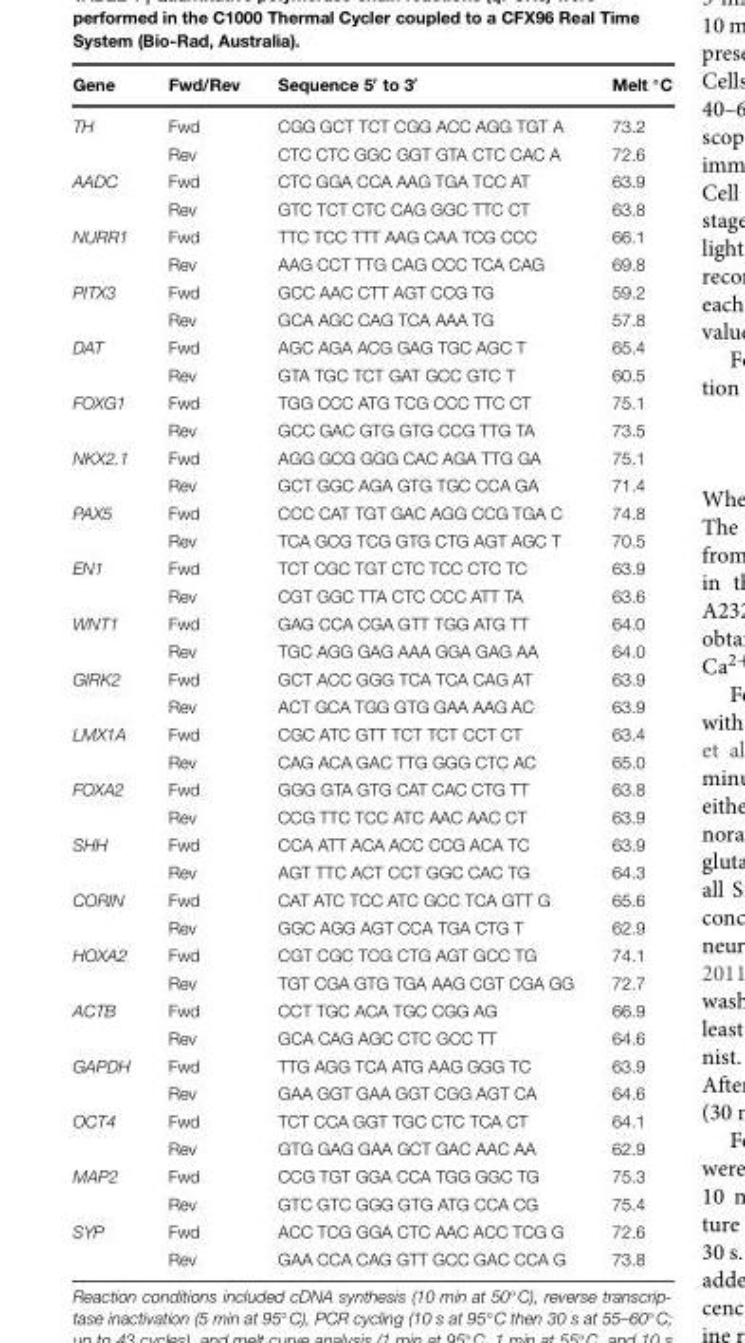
<table><thead><tr><td>Gene</td><td>Fwd/Rev</td><td>Sequence 5′ to 3′</td><td>Melt ◦C</td></tr></thead><tbody><tr><td rowspan="2">TH</td><td>Fwd</td><td>CGG GCT TCT CGG ACC AGG TGT A</td><td>73.2</td></tr><tr><td>Rev</td><td>CTC CTC GGC GGT GTA CTC CAC A</td><td>72.6</td></tr><tr><td rowspan="2">AADC</td><td>Fwd</td><td>CTC GGA CCA AAG TGA TCC AT</td><td>63.9</td></tr><tr><td>Rev</td><td>GTC TCT CTC CAG GGC TTC CT</td><td>63.8</td></tr><tr><td rowspan="2">NURR1</td><td>Fwd</td><td>TTC TCC TTT AAG CAA TCG CCC</td><td>66.1</td></tr><tr><td>Rev</td><td>AAG CCT TTG CAG CCC TCA CAG</td><td>69.8</td></tr><tr><td rowspan="2">PITX3</td><td>Fwd</td><td>GCC AAC CTT AGT CCG TG</td><td>59.2</td></tr><tr><td>Rev</td><td>GCA AGC CAG TCA AAA TG</td><td>57.8</td></tr><tr><td rowspan="2">DAT</td><td>Fwd</td><td>AGC AGA ACG GAG TGC AGC T</td><td>65.4</td></tr><tr><td>Rev</td><td>GTA TGC TCT GAT GCC GTC T</td><td>60.5</td></tr><tr><td rowspan="2">FOXG1</td><td>Fwd</td><td>TGG CCC ATG TCG CCC TTC CT</td><td>75.1</td></tr><tr><td>Rev</td><td>GCC GAC GTG GTG CCG TTG TA</td><td>73.5</td></tr><tr><td rowspan="2">NKX2.1</td><td>Fwd</td><td>AGG GCG GGG CAC AGA TTG GA</td><td>75.1</td></tr><tr><td>Rev</td><td>GCT GGC AGA GTG TGC CCA GA</td><td>71.4</td></tr><tr><td rowspan="2">PAX5</td><td>Fwd</td><td>CCC CAT TGT GAC AGG CCG TGA C</td><td>74.8</td></tr><tr><td>Rev</td><td>TCA GCG TCG GTG CTG AGT AGC T</td><td>70.5</td></tr><tr><td rowspan="2">EN1</td><td>Fwd</td><td>TCT CGC TGT CTC TCC CTC TC</td><td>63.9</td></tr><tr><td>Rev</td><td>CGT GGC TTA CTC CCC ATT TA</td><td>63.6</td></tr><tr><td rowspan="2">WNT1</td><td>Fwd</td><td>GAG CCA CGA GTT TGG ATG TT</td><td>64.0</td></tr><tr><td>Rev</td><td>TGC AGG GAG AAA GGA GAG AA</td><td>64.0</td></tr><tr><td rowspan="2">GIRK2</td><td>Fwd</td><td>GCT ACC GGG TCA TCA CAG AT</td><td>63.9</td></tr><tr><td>Rev</td><td>ACT GCA TGG GTG GAA AAG AC</td><td>63.9</td></tr><tr><td rowspan="2">LMX1A</td><td>Fwd</td><td>CGC ATC GTT TCT TCT CCT CT</td><td>63.4</td></tr><tr><td>Rev</td><td>CAG ACA GAC TTG GGG CTC AC</td><td>65.0</td></tr><tr><td rowspan="2">FOXA2</td><td>Fwd</td><td>GGG GTA GTG CAT CAC CTG TT</td><td>63.8</td></tr><tr><td>Rev</td><td>CCG TTC TCC ATC AAC AAC CT</td><td>63.9</td></tr><tr><td rowspan="2">SHH</td><td>Fwd</td><td>CCA ATT ACA ACC CCG ACA TC</td><td>63.9</td></tr><tr><td>Rev</td><td>AGT TTC ACT CCT GGC CAC TG</td><td>64.3</td></tr><tr><td rowspan="2">CORIN</td><td>Fwd</td><td>CAT ATC TCC ATC GCC TCA GTT G</td><td>65.6</td></tr><tr><td>Rev</td><td>GGC AGG AGT CCA TGA CTG T</td><td>62.9</td></tr><tr><td rowspan="2">HOXA2</td><td>Fwd</td><td>CGT CGC TCG CTG AGT GCC TG</td><td>74.1</td></tr><tr><td>Rev</td><td>TGT CGA GTG TGA AAG CGT CGA GG</td><td>72.7</td></tr><tr><td rowspan="2">ACTB</td><td>Fwd</td><td>CCT TGC ACA TGC CGG AG</td><td>66.9</td></tr><tr><td>Rev</td><td>GCA CAG AGC CTC GCC TT</td><td>64.6</td></tr><tr><td rowspan="2">GAPDH</td><td>Fwd</td><td>TTG AGG TCA ATG AAG GGG TC</td><td>63.9</td></tr><tr><td>Rev</td><td>GAA GGT GAA GGT CGG AGT CA</td><td>64.6</td></tr><tr><td rowspan="2">OCT4</td><td>Fwd</td><td>TCT CCA GGT TGC CTC TCA CT</td><td>64.1</td></tr><tr><td>Rev</td><td>GTG GAG GAA GCT GAC AAC AA</td><td>62.9</td></tr><tr><td rowspan="2">MAP2</td><td>Fwd</td><td>CCG TGT GGA CCA TGG GGC TG</td><td>75.3</td></tr><tr><td>Rev</td><td>GTC GTC GGG GTG ATG CCA CG</td><td>75.4</td></tr><tr><td rowspan="2">SYP</td><td>Fwd</td><td>ACC TCG GGA CTC AAC ACC TCG G</td><td>72.6</td></tr><tr><td>Rev</td><td>GAA CCA CAG GTT GCC GAC CCA G</td><td>73.8</td></tr></tbody></table>